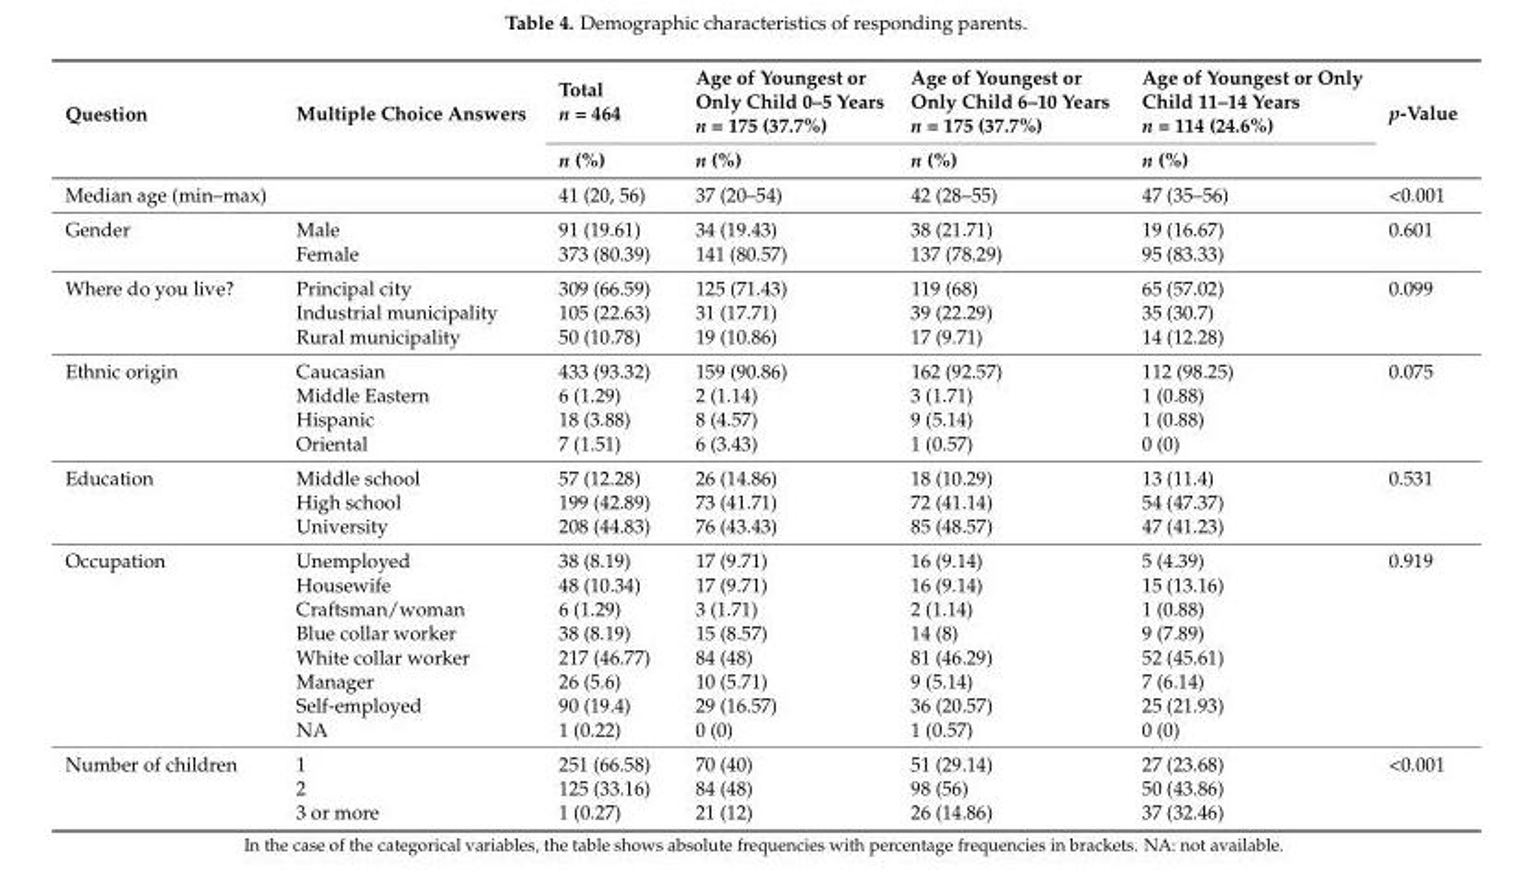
<table><thead><tr><td rowspan="2">Question</td><td rowspan="2">Multiple Choice Answers</td><td rowspan="2">Total n = 464 n (%)</td><td rowspan="2">Age of Youngest or Only Child 0–5 Years n = 175 (37.7%) n (%)</td><td rowspan="2">Age of Youngest or Only Child 6–10 Years n = 175 (37.7%) n (%)</td><td rowspan="2">Age of Youngest or Only Child 11–14 Years n = 114 (24.6%) n (%)</td><td rowspan="2">p-Value</td></tr><tr></tr></thead><tbody><tr><td>Median age (min–max)</td><td></td><td>41 (20, 56)</td><td>37 (20–54)</td><td>42 (28–55)</td><td>47 (35–56)</td><td>&lt;0.001</td></tr><tr><td rowspan="2">Gender</td><td>Male</td><td>91 (19.61)</td><td>34 (19.43)</td><td>38 (21.71)</td><td>19 (16.67)</td><td>0.601</td></tr><tr><td>Female</td><td>373 (80.39)</td><td>141 (80.57)</td><td>137 (78.29)</td><td>95 (83.33)</td><td></td></tr><tr><td rowspan="3">Where do you live?</td><td>Principal city</td><td>309 (66.59)</td><td>125 (71.43)</td><td>119 (68)</td><td>65 (57.02)</td><td>0.099</td></tr><tr><td>Industrial municipality</td><td>105 (22.63)</td><td>31 (17.71)</td><td>39 (22.29)</td><td>35 (30.7)</td><td></td></tr><tr><td>Rural municipality</td><td>50 (10.78)</td><td>19 (10.86)</td><td>17 (9.71)</td><td>14 (12.28)</td><td></td></tr><tr><td rowspan="4">Ethnic origin</td><td>Caucasian</td><td>433 (93.32)</td><td>159 (90.86)</td><td>162 (92.57)</td><td>112 (98.25)</td><td>0.075</td></tr><tr><td>Middle Eastern</td><td>6 (1.29)</td><td>2 (1.14)</td><td>3 (1.71)</td><td>1 (0.88)</td><td></td></tr><tr><td>Hispanic</td><td>18 (3.88)</td><td>8 (4.57)</td><td>9 (5.14)</td><td>1 (0.88)</td><td></td></tr><tr><td>Oriental</td><td>7 (1.51)</td><td>6 (3.43)</td><td>1 (0.57)</td><td>0 (0)</td><td></td></tr><tr><td rowspan="3">Education</td><td>Middle school</td><td>57 (12.28)</td><td>26 (14.86)</td><td>18 (10.29)</td><td>13 (11.4)</td><td>0.531</td></tr><tr><td>High school</td><td>199 (42.89)</td><td>73 (41.71)</td><td>72 (41.14)</td><td>54 (47.37)</td><td></td></tr><tr><td>University</td><td>208 (44.83)</td><td>76 (43.43)</td><td>85 (48.57)</td><td>47 (41.23)</td><td></td></tr><tr><td rowspan="8">Occupation</td><td>Unemployed</td><td>38 (8.19)</td><td>17 (9.71)</td><td>16 (9.14)</td><td>5 (4.39)</td><td>0.919</td></tr><tr><td>Housewife</td><td>48 (10.34)</td><td>17 (9.71)</td><td>16 (9.14)</td><td>15 (13.16)</td><td></td></tr><tr><td>Craftsman/woman</td><td>6 (1.29)</td><td>3 (1.71)</td><td>2 (1.14)</td><td>1 (0.88)</td><td></td></tr><tr><td>Blue collar worker</td><td>38 (8.19)</td><td>15 (8.57)</td><td>14 (8)</td><td>9 (7.89)</td><td></td></tr><tr><td>White collar worker</td><td>217 (46.77)</td><td>84 (48)</td><td>81 (46.29)</td><td>52 (45.61)</td><td></td></tr><tr><td>Manager</td><td>26 (5.6)</td><td>10 (5.71)</td><td>9 (5.14)</td><td>7 (6.14)</td><td></td></tr><tr><td>Self-employed</td><td>90 (19.4)</td><td>29 (16.57)</td><td>36 (20.57)</td><td>25 (21.93)</td><td></td></tr><tr><td>NA</td><td>1 (0.22)</td><td>0 (0)</td><td>1 (0.57)</td><td>0 (0)</td><td></td></tr><tr><td rowspan="3">Number of children</td><td>1</td><td>251 (66.58)</td><td>70 (40)</td><td>51 (29.14)</td><td>27 (23.68)</td><td>&lt;0.001</td></tr><tr><td>2</td><td>125 (33.16)</td><td>84 (48)</td><td>98 (56)</td><td>50 (43.86)</td><td></td></tr><tr><td>3 or more</td><td>1 (0.27)</td><td>21 (12)</td><td>26 (14.86)</td><td>37 (32.46)</td><td></td></tr></tbody></table>